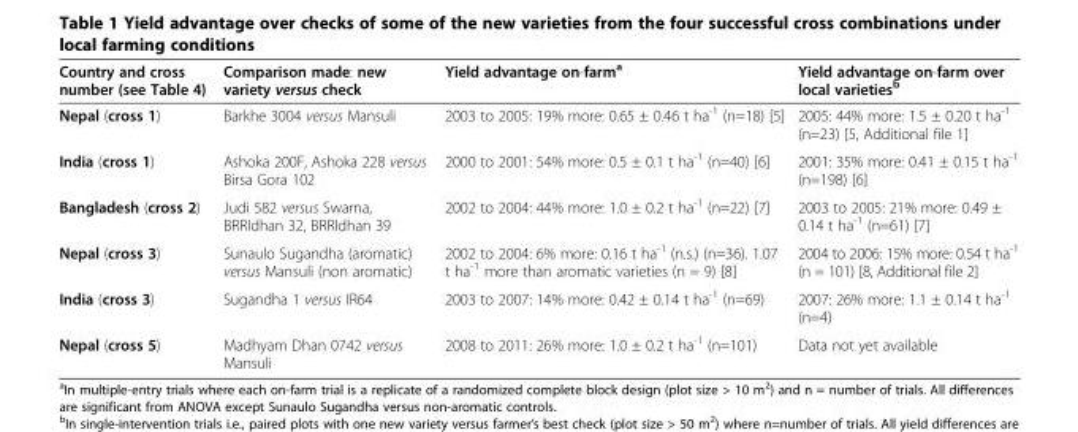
<table><thead><tr><td>Country and cross number (see Table 4)</td><td>Comparison made: new variety versus check</td><td>Yield advantage on-farm<sup>a</sup></td><td>Yield advantage on-farm over local varieties<sup>b</sup></td></tr></thead><tbody><tr><td>Nepal (cross 1)</td><td>Barkhe 3004 versus Mansuli</td><td>2003 to 2005: 19% more: 0.65 ± 0.46 t ha<sup>-1</sup> (n=18) [5]</td><td>2005: 44% more: 1.5 ± 0.20 t ha-1 (n=23) [5, Additional file 1]</td></tr><tr><td>India (cross 1)</td><td>Ashoka 200F, Ashoka 228 versus Birsa Gora 102</td><td>2000 to 2001: 54% more: 0.5 ± 0.1 t ha<sup>-1</sup> (n=40) [6]</td><td>2001: 35% more: 0.41 ± 0.15 t ha<sup>-1</sup> (n=198) [6]</td></tr><tr><td>Bangladesh (cross 2)</td><td>Judi 582 versus Swarna, BRRIdhan 32, BRRIdhan 39</td><td>2002 to 2004: 44% more: 1.0 ± 0.2 t ha<sup>-1</sup> (n=22) [7]</td><td>2003 to 2005: 21% more: 0.49 ± 0.14 t ha<sup>-1</sup> (n=61) [7]</td></tr><tr><td>Nepal (cross 3)</td><td>Sunaulo Sugandha (aromatic) versus Mansuli (non aromatic)</td><td>2002 to 2004: 6% more: 0.16 t ha<sup>-1</sup> (n.s.) (n=36). 1.07 t ha<sup>-1</sup> more than aromatic varieties (n = 9) [8]</td><td>2004 to 2006: 15% more: 0.54 t ha-1 (n = 101) [8, Additional file 2]</td></tr><tr><td>India (cross 3)</td><td>Sugandha 1 versus IR64</td><td>2003 to 2007: 14% more: 0.42 ± 0.14 t ha<sup>-1</sup> (n=69)</td><td>2007: 26% more: 1.1 ± 0.14 t ha<sup>-1</sup> (n=4)</td></tr><tr><td>Nepal (cross 5)</td><td>Madhyam Dhan 0742 versus Mansuli</td><td>2008 to 2011: 26% more: 1.0 ± 0.2 t ha<sup>-1</sup> (n=101)</td><td>Data not yet available</td></tr></tbody></table>